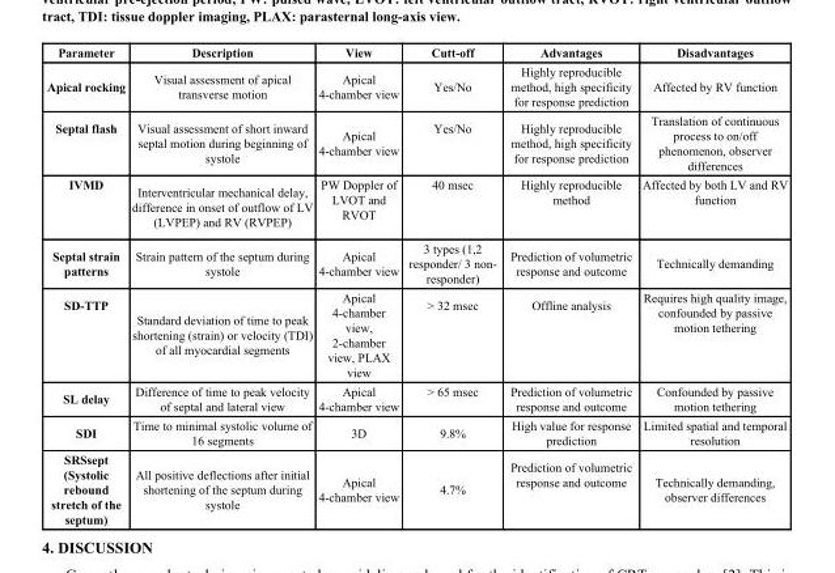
<table><thead><tr><td>Parameter</td><td>Description</td><td>View</td><td>Cutt-off</td><td>Advantages</td><td>Disadvantages</td></tr></thead><tbody><tr><td>Apical rocking</td><td>Visual assessment of apical transverse motion</td><td>Apical 4-chamber view</td><td>Yes/No</td><td>Highly reproducible method, high specificity for response prediction</td><td>Affected by RV function</td></tr><tr><td>Septal flash</td><td>Visual assessment of short inward septal motion during beginning of systole</td><td>Apical 4-chamber view</td><td>Yes/No</td><td>Highly reproducible method, high specificity for response prediction</td><td>Translation of continuous process to on/off phenomenon, observer differences</td></tr><tr><td>IVMD</td><td>Interventricular mechanical delay, difference in onset of outflow of LV (LVPEP) and RV (RVPEP)</td><td>PW Doppler of LVOT and RVOT</td><td>40 msec</td><td>Highly reproducible method</td><td>Affected by both LV and RV function</td></tr><tr><td>Septal strain patterns</td><td>Strain pattern of the septum during systole</td><td>Apical 4-chamber view</td><td>3 types (1,2 responder/ 3 non- responder)</td><td>Prediction of volumetric response and outcome</td><td>Technically demanding</td></tr><tr><td>SD-TTP</td><td>Standard deviation of time to peak shortening (strain) or velocity (TDI) of all myocardial segments</td><td>Apical 4-chamber view, 2-chamber view, PLAX view</td><td>&gt; 32 msec</td><td>Offline analysis</td><td>Requires high quality image, confounded by passive motion tethering</td></tr><tr><td>SL delay</td><td>Difference of time to peak velocity of septal and lateral view</td><td>Apical 4-chamber view</td><td>&gt; 65 msec</td><td>Prediction of volumetric response and outcome</td><td>Confounded by passive motion tethering</td></tr><tr><td>SDI</td><td>Time to minimal systolic volume of 16 segments</td><td>3D</td><td>9.8%</td><td>High value for response prediction</td><td>Limited spatial and temporal resolution</td></tr><tr><td>SRSsept (Systolic rebound stretch of the septum)</td><td>All positive deflections after initial shortening of the septum during systole</td><td>Apical 4-chamber view</td><td>4.7%</td><td>Prediction of volumetric response and outcome</td><td>Technically demanding, observer differences</td></tr></tbody></table>